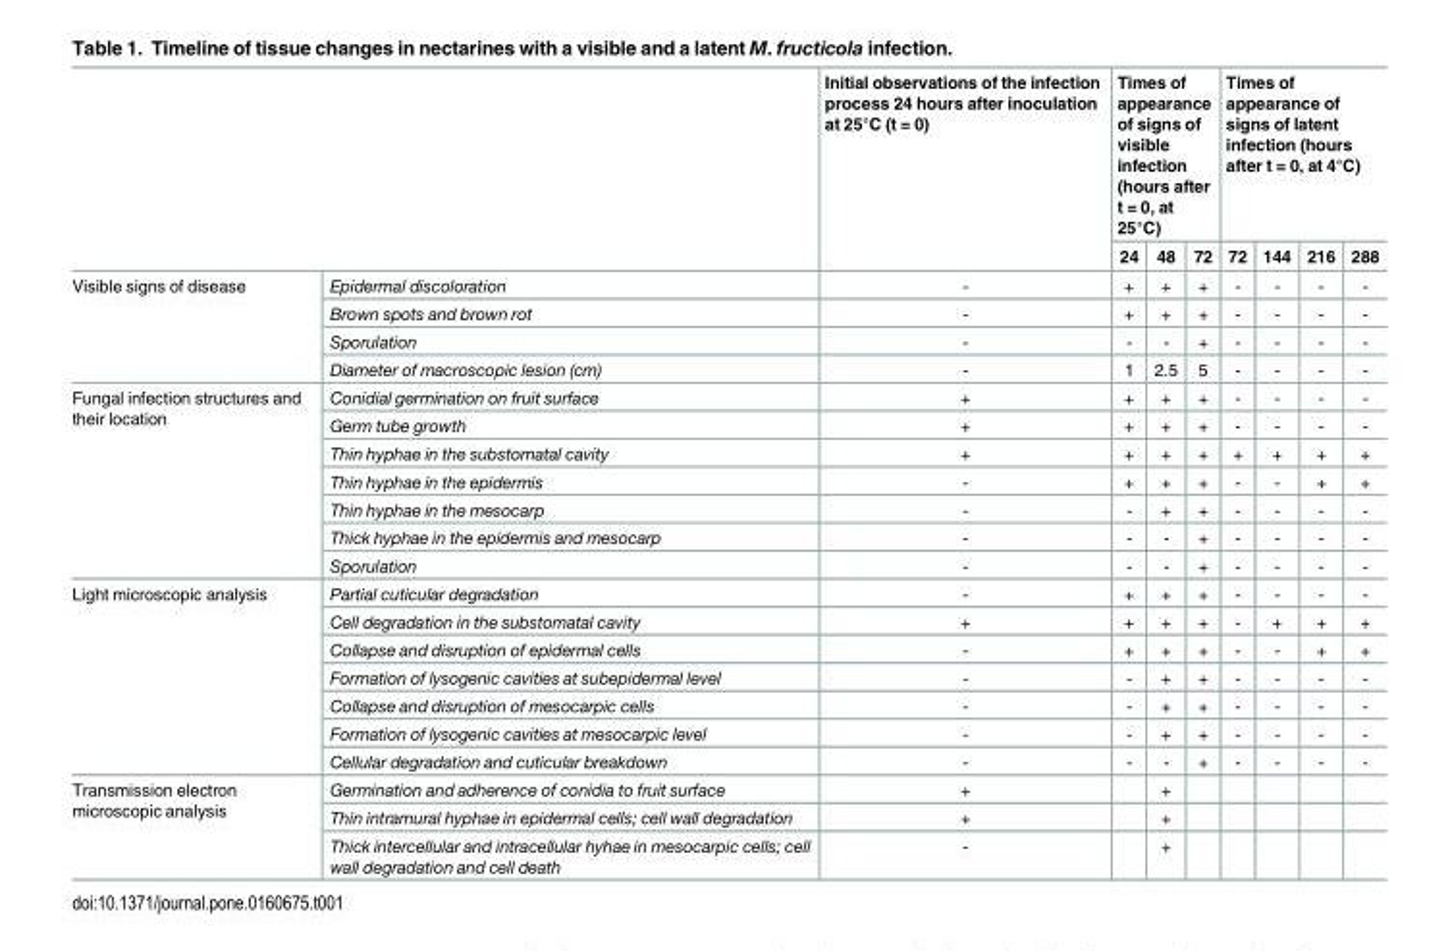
<table><thead><tr><td rowspan="2"></td><td rowspan="2"></td><td rowspan="2">Initial observations of the infection process 24 hours after inoculation at 25°C (t = 0)</td><td colspan="3">Times of appearance of signs of visible infection (hours after t = 0, at 25°C)</td><td colspan="4">Times of appearance of signs of latent infection (hours after t = 0, at 4°C)</td></tr><tr><td>24</td><td>48</td><td>72</td><td>72</td><td>144</td><td>216</td><td>288</td></tr></thead><tbody><tr><td rowspan="4">Visible signs of disease</td><td>Epidermal discoloration</td><td>-</td><td>+</td><td>+</td><td>+</td><td>-</td><td>-</td><td>-</td><td>-</td></tr><tr><td>Brown spots and brown rot</td><td>-</td><td>+</td><td>+</td><td>+</td><td>-</td><td>-</td><td>-</td><td>-</td></tr><tr><td>Sporulation</td><td>-</td><td>-</td><td>-</td><td>+</td><td>-</td><td>-</td><td>-</td><td>-</td></tr><tr><td>Diameter of macroscopic lesion (cm)</td><td>-</td><td>1</td><td>2.5</td><td>5</td><td>-</td><td>-</td><td>-</td><td>-</td></tr><tr><td rowspan="7">Fungal infection structures and their location</td><td>Conidial germination on fruit surface</td><td>+</td><td>+</td><td>+</td><td>+</td><td>-</td><td>-</td><td>-</td><td>-</td></tr><tr><td>Germ tube growth</td><td>+</td><td>+</td><td>+</td><td>+</td><td>-</td><td>-</td><td>-</td><td>-</td></tr><tr><td>Thin hyphae in the substomatal cavity</td><td>+</td><td>+</td><td>+</td><td>+</td><td>+</td><td>+</td><td>+</td><td>+</td></tr><tr><td>Thin hyphae in the epidermis</td><td>-</td><td>+</td><td>+</td><td>+</td><td>-</td><td>-</td><td>+</td><td>+</td></tr><tr><td>Thin hyphae in the mesocarp</td><td>-</td><td>-</td><td>+</td><td>+</td><td>-</td><td>-</td><td>-</td><td>-</td></tr><tr><td>Thick hyphae in the epidermis and mesocarp</td><td>-</td><td>-</td><td>-</td><td>+</td><td>-</td><td>-</td><td>-</td><td>-</td></tr><tr><td>Sporulation</td><td>-</td><td>-</td><td>-</td><td>+</td><td>-</td><td>-</td><td>-</td><td>-</td></tr><tr><td rowspan="7">Light microscopic analysis</td><td>Partial cuticular degradation</td><td>-</td><td>+</td><td>+</td><td>+</td><td>-</td><td>-</td><td>-</td><td>-</td></tr><tr><td>Cell degradation in the substomatal cavity</td><td>+</td><td>+</td><td>+</td><td>+</td><td>-</td><td>+</td><td>+</td><td>+</td></tr><tr><td>Collapse and disruption of epidermal cells</td><td>-</td><td>+</td><td>+</td><td>+</td><td>-</td><td>-</td><td>+</td><td>+</td></tr><tr><td>Formation of lysogenic cavities at subepidermal level</td><td>-</td><td>-</td><td>+</td><td>+</td><td>-</td><td>-</td><td>-</td><td>-</td></tr><tr><td>Collapse and disruption of mesocarpic cells</td><td>-</td><td>-</td><td>+</td><td>+</td><td>-</td><td>-</td><td>-</td><td>-</td></tr><tr><td>Formation of lysogenic cavities at mesocarpic level</td><td>-</td><td>-</td><td>+</td><td>+</td><td>-</td><td>-</td><td>-</td><td>-</td></tr><tr><td>Cellular degradation and cuticular breakdown</td><td>-</td><td>-</td><td>-</td><td>+</td><td>-</td><td>-</td><td>-</td><td>-</td></tr><tr><td rowspan="3">Transmission electron microscopic analysis</td><td>Germination and adherence of conidia to fruit surface</td><td>+</td><td></td><td>+</td><td></td><td></td><td></td><td></td><td></td></tr><tr><td>Thin intramural hyphae in epidermal cells; cell wall degradation</td><td>+</td><td></td><td>+</td><td></td><td></td><td></td><td></td><td></td></tr><tr><td>Thick intercellular and intracellular hyhae in mesocarpic cells; cell wall degradation and cell death</td><td>-</td><td></td><td>+</td><td></td><td></td><td></td><td></td><td></td></tr></tbody></table>